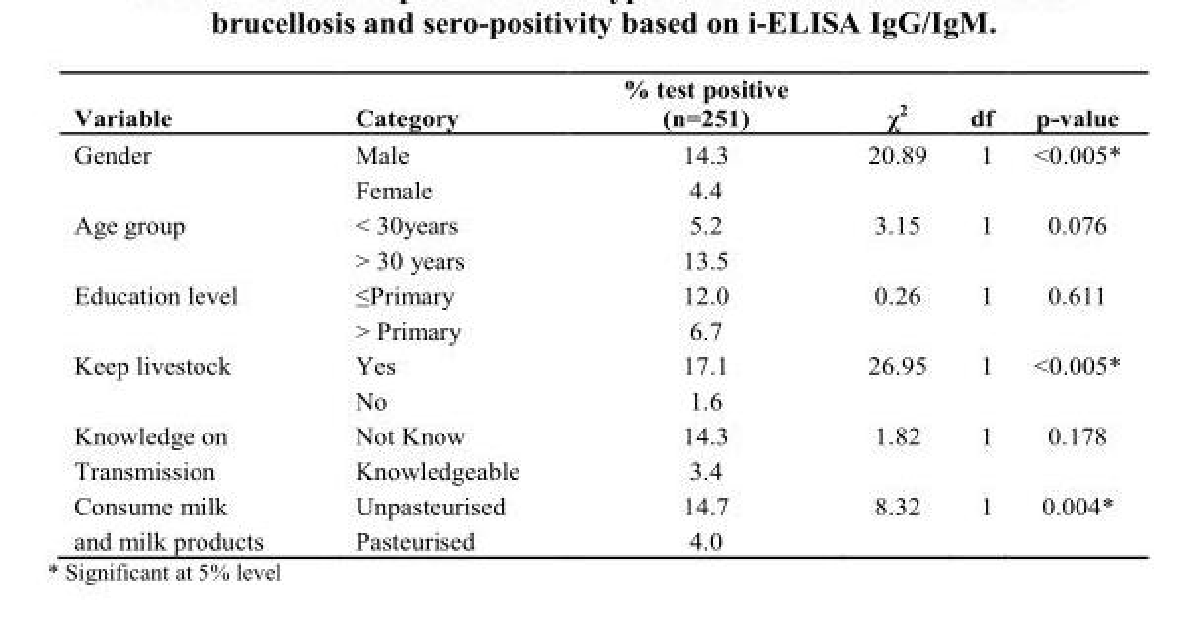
<table><thead><tr><td>Variable</td><td>Category</td><td>% test positive (n=251)</td><td>χ<sup>2</sup></td><td>df</td><td>p-value</td></tr></thead><tbody><tr><td rowspan="2">Gender</td><td>Male</td><td>14.3</td><td>20.89</td><td>1</td><td>&lt;0.005*</td></tr><tr><td>Female</td><td>4.4</td><td></td><td></td><td></td></tr><tr><td rowspan="2">Age group</td><td>&lt; 30years</td><td>5.2</td><td>3.15</td><td>1</td><td>0.076</td></tr><tr><td>&gt; 30 years</td><td>13.5</td><td></td><td></td><td></td></tr><tr><td rowspan="2">Education level</td><td>≤Primary</td><td>12.0</td><td>0.26</td><td>1</td><td>0.611</td></tr><tr><td>&gt; Primary</td><td>6.7</td><td></td><td></td><td></td></tr><tr><td rowspan="2">Keep livestock</td><td>Yes</td><td>17.1</td><td>26.95</td><td>1</td><td>&lt;0.005*</td></tr><tr><td>No</td><td>1.6</td><td></td><td></td><td></td></tr><tr><td>Knowledge on</td><td>Not Know</td><td>14.3</td><td>1.82</td><td>1</td><td>0.178</td></tr><tr><td>Transmission</td><td>Knowledgeable</td><td>3.4</td><td></td><td></td><td></td></tr><tr><td>Consume milk</td><td>Unpasteurised</td><td>14.7</td><td>8.32</td><td>1</td><td>0.004*</td></tr><tr><td>and milk products</td><td>Pasteurised</td><td>4.0</td><td></td><td></td><td></td></tr></tbody></table>